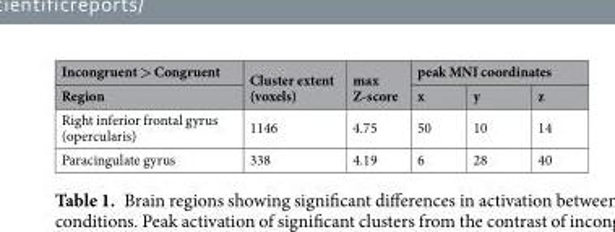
<table><thead><tr><td rowspan="2">Incongruent &gt; Congruent Region</td><td rowspan="2">Cluster extent (voxels)</td><td rowspan="2">max Z-score</td><td colspan="3">peak MNI coordinates</td></tr><tr><td>x</td><td>y</td><td>z</td></tr></thead><tbody><tr><td>Right inferior frontal gyrus (opercularis)</td><td>1146</td><td>4.75</td><td>50</td><td>10</td><td>14</td></tr><tr><td>Paracingulate gyrus</td><td>338</td><td>4.19</td><td>6</td><td>28</td><td>40</td></tr></tbody></table>